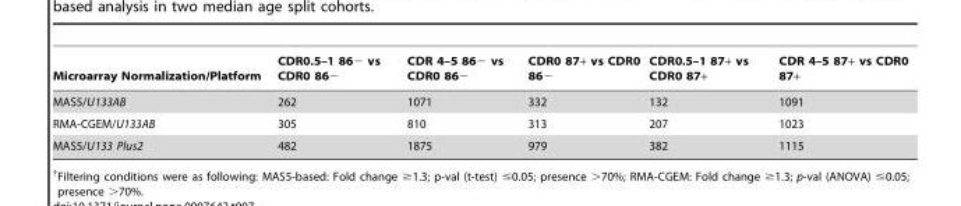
<table><thead><tr><td>Microarray Normalization/Platform</td><td>CDR0.5–1 86− vs CDR0 86−</td><td>CDR 4–5 86− vs CDR0 86−</td><td>CDR0 87+ vs CDR0 86−</td><td>CDR0.5–1 87+ vs CDR0 87+</td><td>CDR 4–5 87+ vs CDR0 87+</td></tr></thead><tbody><tr><td>MAS5/U133AB</td><td>262</td><td>1071</td><td>332</td><td>132</td><td>1091</td></tr><tr><td>RMA-CGEM/U133AB</td><td>305</td><td>810</td><td>313</td><td>207</td><td>1023</td></tr><tr><td>MAS5/U133 Plus2</td><td>482</td><td>1875</td><td>979</td><td>382</td><td>1115</td></tr></tbody></table>